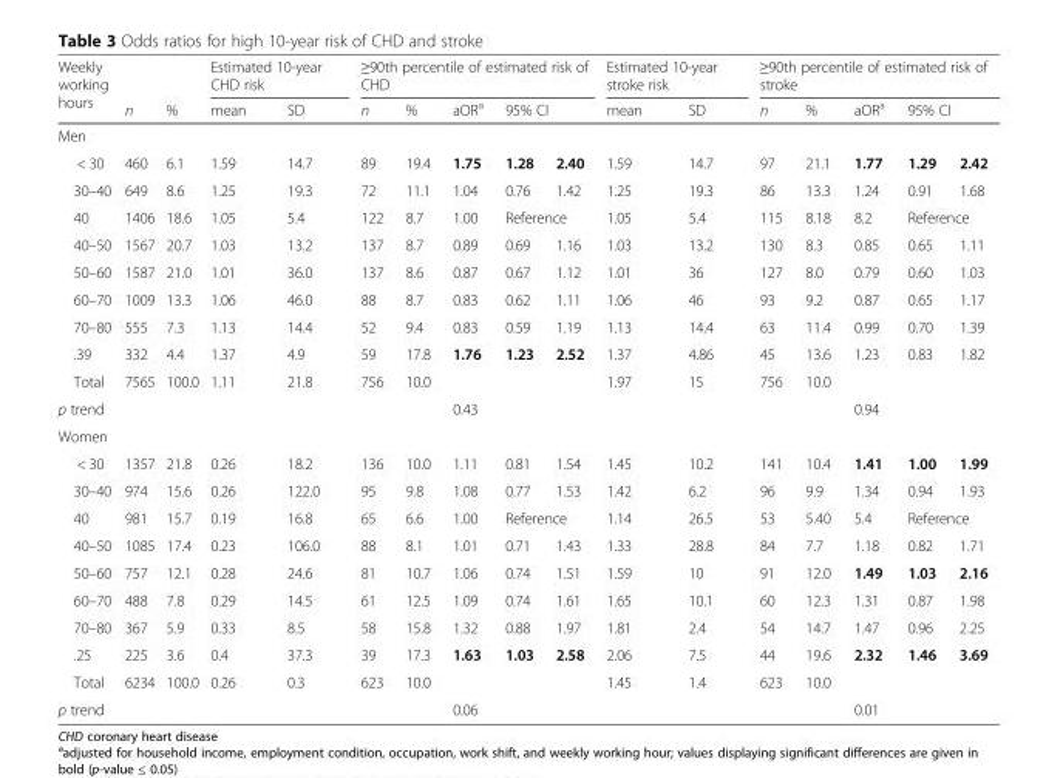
<table><thead><tr><td rowspan="2">Weekly working hours</td><td rowspan="2">n</td><td rowspan="2">%</td><td colspan="2">Estimated 10-year CHD risk</td><td colspan="5">≥90th percentile of estimated risk of CHD</td><td colspan="2">Estimated 10-year stroke risk</td><td colspan="5">≥90th percentile of estimated risk of stroke</td></tr><tr><td>mean</td><td>SD</td><td>n</td><td>%</td><td>aOR<sup>a</sup></td><td colspan="2">95% CI</td><td>mean</td><td>SD</td><td>n</td><td>%</td><td>aOR<sup>a</sup></td><td colspan="2">95% CI</td></tr><tr><td colspan="17">Men</td></tr><tr><td>&lt; 30</td><td>460</td><td>6.1</td><td>1.59</td><td>14.7</td><td>89</td><td>19.4</td><td>1.75</td><td>1.28</td><td>2.40</td><td>1.59</td><td>14.7</td><td>97</td><td>21.1</td><td>1.77</td><td>1.29</td><td>2.42</td></tr></thead><tbody><tr><td>30–40</td><td>649</td><td>8.6</td><td>1.25</td><td>19.3</td><td>72</td><td>11.1</td><td>1.04</td><td>0.76</td><td>1.42</td><td>1.25</td><td>19.3</td><td>86</td><td>13.3</td><td>1.24</td><td>0.91</td><td>1.68</td></tr><tr><td>40</td><td>1406</td><td>18.6</td><td>1.05</td><td>5.4</td><td>122</td><td>8.7</td><td>1.00</td><td colspan="2">Reference</td><td>1.05</td><td>5.4</td><td>115</td><td>8.18</td><td>8.2</td><td colspan="2">Reference</td></tr><tr><td>40–50</td><td>1567</td><td>20.7</td><td>1.03</td><td>13.2</td><td>137</td><td>8.7</td><td>0.89</td><td>0.69</td><td>1.16</td><td>1.03</td><td>13.2</td><td>130</td><td>8.3</td><td>0.85</td><td>0.65</td><td>1.11</td></tr><tr><td>50–60</td><td>1587</td><td>21.0</td><td>1.01</td><td>36.0</td><td>137</td><td>8.6</td><td>0.87</td><td>0.67</td><td>1.12</td><td>1.01</td><td>36</td><td>127</td><td>8.0</td><td>0.79</td><td>0.60</td><td>1.03</td></tr><tr><td>60–70</td><td>1009</td><td>13.3</td><td>1.06</td><td>46.0</td><td>88</td><td>8.7</td><td>0.83</td><td>0.62</td><td>1.11</td><td>1.06</td><td>46</td><td>93</td><td>9.2</td><td>0.87</td><td>0.65</td><td>1.17</td></tr><tr><td>70–80</td><td>555</td><td>7.3</td><td>1.13</td><td>14.4</td><td>52</td><td>9.4</td><td>0.83</td><td>0.59</td><td>1.19</td><td>1.13</td><td>14.4</td><td>63</td><td>11.4</td><td>0.99</td><td>0.70</td><td>1.39</td></tr><tr><td>.39</td><td>332</td><td>4.4</td><td>1.37</td><td>4.9</td><td>59</td><td>17.8</td><td>1.76</td><td>1.23</td><td>2.52</td><td>1.37</td><td>4.86</td><td>45</td><td>13.6</td><td>1.23</td><td>0.83</td><td>1.82</td></tr><tr><td>Total</td><td>7565</td><td>100.0</td><td>1.11</td><td>21.8</td><td>756</td><td>10.0</td><td></td><td></td><td></td><td>1.97</td><td>15</td><td>756</td><td>10.0</td><td></td><td></td><td></td></tr><tr><td>p trend</td><td></td><td></td><td></td><td></td><td></td><td></td><td colspan="3">0.43</td><td></td><td></td><td></td><td></td><td colspan="3">0.94</td></tr><tr><td colspan="17">Women</td></tr><tr><td>&lt; 30</td><td>1357</td><td>21.8</td><td>0.26</td><td>18.2</td><td>136</td><td>10.0</td><td>1.11</td><td>0.81</td><td>1.54</td><td>1.45</td><td>10.2</td><td>141</td><td>10.4</td><td>1.41</td><td>1.00</td><td>1.99</td></tr><tr><td>30–40</td><td>974</td><td>15.6</td><td>0.26</td><td>122.0</td><td>95</td><td>9.8</td><td>1.08</td><td>0.77</td><td>1.53</td><td>1.42</td><td>6.2</td><td>96</td><td>9.9</td><td>1.34</td><td>0.94</td><td>1.93</td></tr><tr><td>40</td><td>981</td><td>15.7</td><td>0.19</td><td>16.8</td><td>65</td><td>6.6</td><td>1.00</td><td colspan="2">Reference</td><td>1.14</td><td>26.5</td><td>53</td><td>5.40</td><td>5.4</td><td colspan="2">Reference</td></tr><tr><td>40–50</td><td>1085</td><td>17.4</td><td>0.23</td><td>106.0</td><td>88</td><td>8.1</td><td>1.01</td><td>0.71</td><td>1.43</td><td>1.33</td><td>28.8</td><td>84</td><td>7.7</td><td>1.18</td><td>0.82</td><td>1.71</td></tr><tr><td>50–60</td><td>757</td><td>12.1</td><td>0.28</td><td>24.6</td><td>81</td><td>10.7</td><td>1.06</td><td>0.74</td><td>1.51</td><td>1.59</td><td>10</td><td>91</td><td>12.0</td><td>1.49</td><td>1.03</td><td>2.16</td></tr><tr><td>60–70</td><td>488</td><td>7.8</td><td>0.29</td><td>14.5</td><td>61</td><td>12.5</td><td>1.09</td><td>0.74</td><td>1.61</td><td>1.65</td><td>10.1</td><td>60</td><td>12.3</td><td>1.31</td><td>0.87</td><td>1.98</td></tr><tr><td>70–80</td><td>367</td><td>5.9</td><td>0.33</td><td>8.5</td><td>58</td><td>15.8</td><td>1.32</td><td>0.88</td><td>1.97</td><td>1.81</td><td>2.4</td><td>54</td><td>14.7</td><td>1.47</td><td>0.96</td><td>2.25</td></tr><tr><td>.25</td><td>225</td><td>3.6</td><td>0.4</td><td>37.3</td><td>39</td><td>17.3</td><td>1.63</td><td>1.03</td><td>2.58</td><td>2.06</td><td>7.5</td><td>44</td><td>19.6</td><td>2.32</td><td>1.46</td><td>3.69</td></tr><tr><td>Total</td><td>6234</td><td>100.0</td><td>0.26</td><td>0.3</td><td>623</td><td>10.0</td><td></td><td></td><td></td><td>1.45</td><td>1.4</td><td>623</td><td>10.0</td><td></td><td></td><td></td></tr><tr><td>p trend</td><td></td><td></td><td></td><td></td><td></td><td></td><td colspan="3">0.06</td><td></td><td></td><td></td><td></td><td colspan="3">0.01</td></tr></tbody></table>